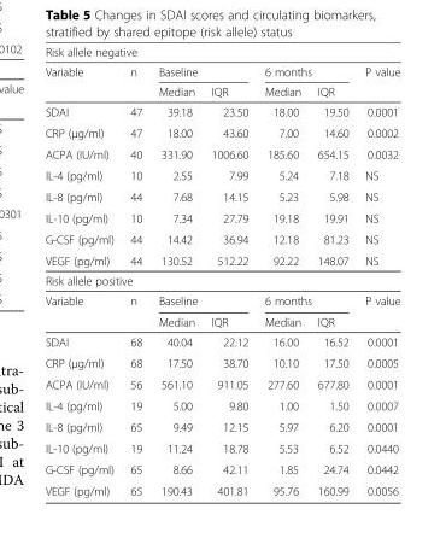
<table><thead><tr><td colspan="7">Risk allele negative</td></tr><tr><td rowspan="2">Variable</td><td rowspan="2">n</td><td colspan="2">Baseline</td><td colspan="2">6 months</td><td rowspan="2">P value</td></tr><tr><td>Median</td><td>IQR</td><td>Median</td><td>IQR</td></tr></thead><tbody><tr><td>SDAI</td><td>47</td><td>39.18</td><td>23.50</td><td>18.00</td><td>19.50</td><td>0.0001</td></tr><tr><td>CRP (μg/ml)</td><td>47</td><td>18.00</td><td>43.60</td><td>7.00</td><td>14.60</td><td>0.0002</td></tr><tr><td>ACPA (IU/ml)</td><td>40</td><td>331.90</td><td>1006.60</td><td>185.60</td><td>654.15</td><td>0.0032</td></tr><tr><td>IL-4 (pg/ml)</td><td>10</td><td>2.55</td><td>7.99</td><td>5.24</td><td>7.18</td><td>NS</td></tr><tr><td>IL-8 (pg/ml)</td><td>44</td><td>7.68</td><td>14.15</td><td>5.23</td><td>5.98</td><td>NS</td></tr><tr><td>IL-10 (pg/ml)</td><td>10</td><td>7.34</td><td>27.79</td><td>19.18</td><td>19.91</td><td>NS</td></tr><tr><td>G-CSF (pg/ml)</td><td>44</td><td>14.42</td><td>36.94</td><td>12.18</td><td>81.23</td><td>NS</td></tr><tr><td>VEGF (pg/ml)</td><td>44</td><td>130.52</td><td>512.22</td><td>92.22</td><td>148.07</td><td>NS</td></tr><tr><td colspan="7">Risk allele positive</td></tr><tr><td rowspan="2">Variable</td><td>n</td><td colspan="2">Baseline</td><td colspan="2">6 months</td><td>P value</td></tr><tr><td></td><td>Median</td><td>IQR</td><td>Median</td><td>IQR</td><td></td></tr><tr><td>SDAI</td><td>68</td><td>40.04</td><td>22.12</td><td>16.00</td><td>16.52</td><td>0.0001</td></tr><tr><td>CRP (μg/ml)</td><td>68</td><td>17.50</td><td>38.70</td><td>10.10</td><td>17.50</td><td>0.0005</td></tr><tr><td>ACPA (IU/ml)</td><td>56</td><td>561.10</td><td>911.05</td><td>277.60</td><td>677.80</td><td>0.0001</td></tr><tr><td>IL-4 (pg/ml)</td><td>19</td><td>5.00</td><td>9.80</td><td>1.00</td><td>1.50</td><td>0.0007</td></tr><tr><td>IL-8 (pg/ml)</td><td>65</td><td>9.49</td><td>12.15</td><td>5.97</td><td>6.20</td><td>0.0001</td></tr><tr><td>IL-10 (pg/ml)</td><td>19</td><td>11.24</td><td>18.78</td><td>5.53</td><td>6.52</td><td>0.0440</td></tr><tr><td>G-CSF (pg/ml)</td><td>65</td><td>8.66</td><td>42.11</td><td>1.85</td><td>24.74</td><td>0.0442</td></tr><tr><td>VEGF (pg/ml)</td><td>65</td><td>190.43</td><td>401.81</td><td>95.76</td><td>160.99</td><td>0.0056</td></tr></tbody></table>